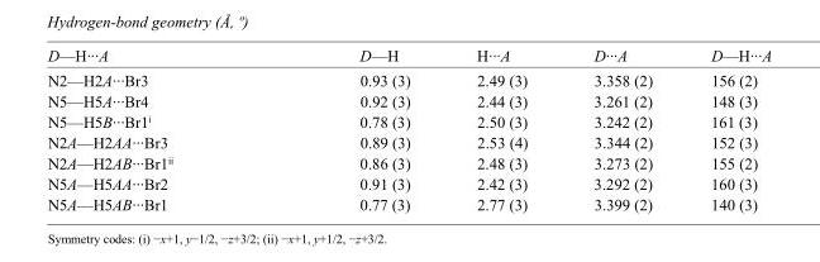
<table><tbody><tr><td>D—H···A</td><td>D—H</td><td>H···A</td><td>D···A</td><td>D—H···A</td></tr><tr><td>N2—H2A···Br3</td><td>0.93 (3)</td><td>2.49 (3)</td><td>3.358 (2)</td><td>156 (2)</td></tr><tr><td>N5—H5A···Br4</td><td>0.92 (3)</td><td>2.44 (3)</td><td>3.261 (2)</td><td>148 (3)</td></tr><tr><td>N5—H5B···Br1<sup>i</sup></td><td>0.78 (3)</td><td>2.50 (3)</td><td>3.242 (2)</td><td>161 (3)</td></tr><tr><td>N2A—H2AA···Br3</td><td>0.89 (3)</td><td>2.53 (4)</td><td>3.344 (2)</td><td>152 (3)</td></tr><tr><td>N2A—H2AB···Br1<sup>ii</sup></td><td>0.86 (3)</td><td>2.48 (3)</td><td>3.273 (2)</td><td>155 (2)</td></tr><tr><td>N5A—H5AA···Br2</td><td>0.91 (3)</td><td>2.42 (3)</td><td>3.292 (2)</td><td>160 (3)</td></tr><tr><td>N5A—H5AB···Br1</td><td>0.77 (3)</td><td>2.77 (3)</td><td>3.399 (2)</td><td>140 (3)</td></tr></tbody></table>